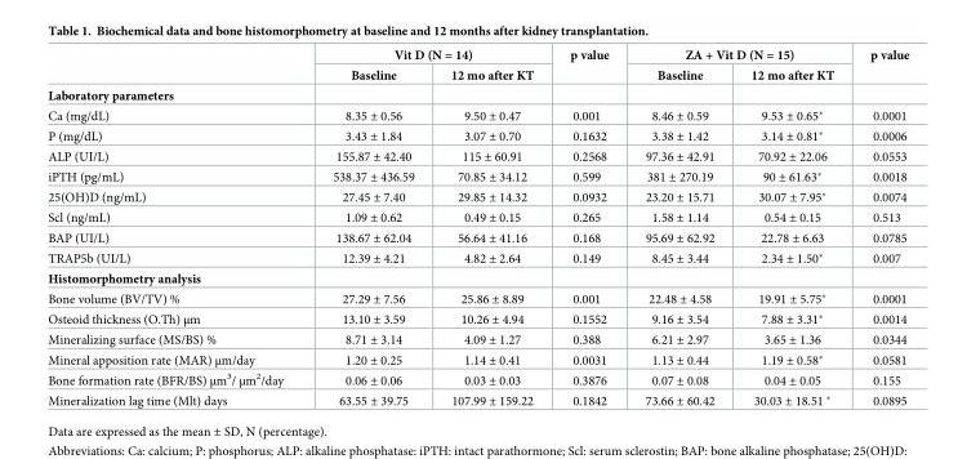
<table><thead><tr><td rowspan="2"></td><td colspan="2">Vit D (N = 14)</td><td rowspan="2">p value</td><td colspan="2">ZA + Vit D (N = 15)</td><td rowspan="2">p value</td></tr><tr><td>Baseline</td><td>12 mo after KT</td><td>Baseline</td><td>12 mo after KT</td></tr></thead><tbody><tr><td colspan="7">Laboratory parameters</td></tr><tr><td>Ca (mg/dL)</td><td>8.35 ± 0.56</td><td>9.50 ± 0.47</td><td>0.001</td><td>8.46 ± 0.59</td><td>9.53 ± 0.65*</td><td>0.0001</td></tr><tr><td>P (mg/dL)</td><td>3.43 ± 1.84</td><td>3.07 ± 0.70</td><td>0.1632</td><td>3.38 ± 1.42</td><td>3.14 ± 0.81*</td><td>0.0006</td></tr><tr><td>ALP (UI/L)</td><td>155.87 ± 42.40</td><td>115 ± 60.91</td><td>0.2568</td><td>97.36 ± 42.91</td><td>70.92 ± 22.06</td><td>0.0553</td></tr><tr><td>iPTH (pg/mL)</td><td>538.37 ± 436.59</td><td>70.85 ± 34.12</td><td>0.599</td><td>381 ± 270.19</td><td>90 ± 61.63*</td><td>0.0018</td></tr><tr><td>25(OH)D (ng/mL)</td><td>27.45 ± 7.40</td><td>29.85 ± 14.32</td><td>0.0932</td><td>23.20 ± 15.71</td><td>30.07 ± 7.95*</td><td>0.0074</td></tr><tr><td>Scl (ng/mL)</td><td>1.09 ± 0.62</td><td>0.49 ± 0.15</td><td>0.265</td><td>1.58 ± 1.14</td><td>0.54 ± 0.15</td><td>0.513</td></tr><tr><td>BAP (UI/L)</td><td>138.67 ± 62.04</td><td>56.64 ± 41.16</td><td>0.168</td><td>95.69 ± 62.92</td><td>22.78 ± 6.63</td><td>0.0785</td></tr><tr><td>TRAP5b (UI/L)</td><td>12.39 ± 4.21</td><td>4.82 ± 2.64</td><td>0.149</td><td>8.45 ± 3.44</td><td>2.34 ± 1.50*</td><td>0.007</td></tr><tr><td colspan="7">Histomorphometry analysis</td></tr><tr><td>Bone volume (BV/TV) %</td><td>27.29 ± 7.56</td><td>25.86 ± 8.89</td><td>0.001</td><td>22.48 ± 4.58</td><td>19.91 ± 5.75*</td><td>0.0001</td></tr><tr><td>Osteoid thickness (O.Th) μm</td><td>13.10 ± 3.59</td><td>10.26 ± 4.94</td><td>0.1552</td><td>9.16 ± 3.54</td><td>7.88 ± 3.31*</td><td>0.0014</td></tr><tr><td>Mineralizing surface (MS/BS) %</td><td>8.71 ± 3.14</td><td>4.09 ± 1.27</td><td>0.388</td><td>6.21 ± 2.97</td><td>3.65 ± 1.36</td><td>0.0344</td></tr><tr><td>Mineral apposition rate (MAR) μm/day</td><td>1.20 ± 0.25</td><td>1.14 ± 0.41</td><td>0.0031</td><td>1.13 ± 0.44</td><td>1.19 ± 0.58*</td><td>0.0581</td></tr><tr><td>Bone formation rate (BFR/BS) μm<sup>3</sup>/ μm<sup>2</sup>/day</td><td>0.06 ± 0.06</td><td>0.03 ± 0.03</td><td>0.3876</td><td>0.07 ± 0.08</td><td>0.04 ± 0.05</td><td>0.155</td></tr><tr><td>Mineralization lag time (Mlt) days</td><td>63.55 ± 39.75</td><td>107.99 ± 159.22</td><td>0.1842</td><td>73.66 ± 60.42</td><td>30.03 ± 18.51 *</td><td>0.0895</td></tr></tbody></table>